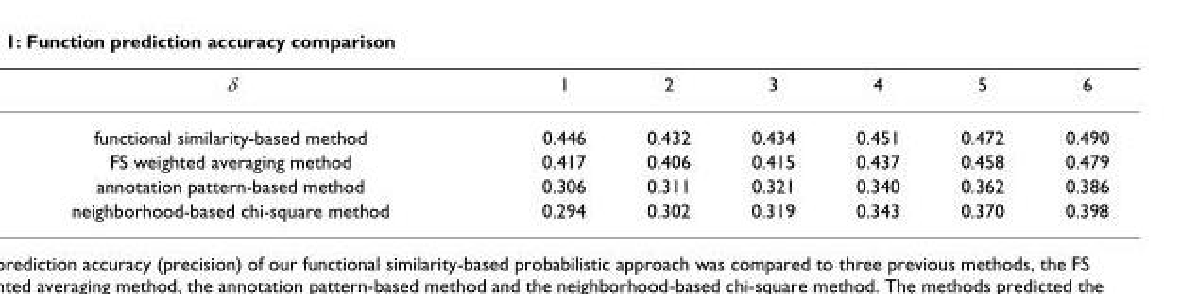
<table><thead><tr><td>δ</td><td>1</td><td>2</td><td>3</td><td>4</td><td>5</td><td>6</td></tr></thead><tbody><tr><td>functional similarity-based method</td><td>0.446</td><td>0.432</td><td>0.434</td><td>0.451</td><td>0.472</td><td>0.490</td></tr><tr><td>FS weighted averaging method</td><td>0.417</td><td>0.406</td><td>0.415</td><td>0.437</td><td>0.458</td><td>0.479</td></tr><tr><td>annotation pattern-based method</td><td>0.306</td><td>0.311</td><td>0.321</td><td>0.340</td><td>0.362</td><td>0.386</td></tr><tr><td>neighborhood-based chi-square method</td><td>0.294</td><td>0.302</td><td>0.319</td><td>0.343</td><td>0.370</td><td>0.398</td></tr></tbody></table>